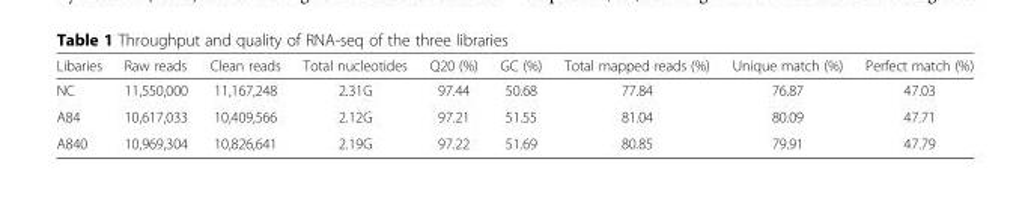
<table><thead><tr><td>Libaries</td><td>Raw reads</td><td>Clean reads</td><td>Total nucleotides</td><td>Q20 (%)</td><td>GC (%)</td><td>Total mapped reads (%)</td><td>Unique match (%)</td><td>Perfect match (%)</td></tr></thead><tbody><tr><td>NC</td><td>11,550,000</td><td>11,167,248</td><td>2.31G</td><td>97.44</td><td>50.68</td><td>77.84</td><td>76.87</td><td>47.03</td></tr><tr><td>A84</td><td>10,617,033</td><td>10,409,566</td><td>2.12G</td><td>97.21</td><td>51.55</td><td>81.04</td><td>80.09</td><td>47.71</td></tr><tr><td>A840</td><td>10,969,304</td><td>10,826,641</td><td>2.19G</td><td>97.22</td><td>51.69</td><td>80.85</td><td>79.91</td><td>47.79</td></tr></tbody></table>